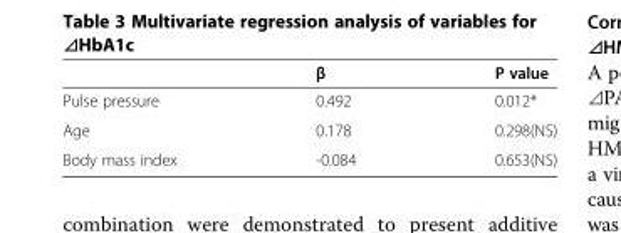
<table><thead><tr><td></td><td>β</td><td>P value</td></tr></thead><tbody><tr><td>Pulse pressure</td><td>0.492</td><td>0.012*</td></tr><tr><td>Age</td><td>0.178</td><td>0.298(NS)</td></tr><tr><td>Body mass index</td><td>-0.084</td><td>0.653(NS)</td></tr></tbody></table>